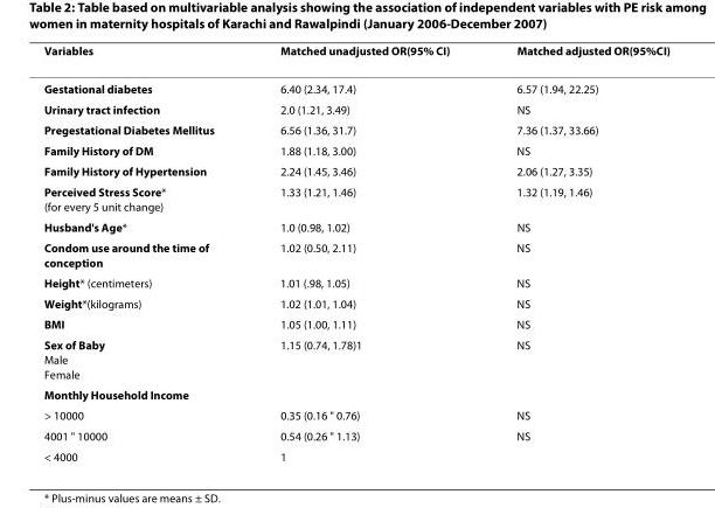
<table><thead><tr><td>Variables</td><td>Matched unadjusted OR(95% CI)</td><td>Matched adjusted OR(95%CI)</td></tr></thead><tbody><tr><td>Gestational diabetes</td><td>6.40 (2.34, 17.4)</td><td>6.57 (1.94, 22.25)</td></tr><tr><td>Urinary tract infection</td><td>2.0 (1.21, 3.49)</td><td>NS</td></tr><tr><td>Pregestational Diabetes Mellitus</td><td>6.56 (1.36, 31.7)</td><td>7.36 (1.37, 33.66)</td></tr><tr><td>Family History of DM</td><td>1.88 (1.18, 3.00)</td><td>NS</td></tr><tr><td>Family History of Hypertension</td><td>2.24 (1.45, 3.46)</td><td>2.06 (1.27, 3.35)</td></tr><tr><td>Perceived Stress Score* (for every 5 unit change)</td><td>1.33 (1.21, 1.46)</td><td>1.32 (1.19, 1.46)</td></tr><tr><td>Husband&#x27;s Age*</td><td>1.0 (0.98, 1.02)</td><td>NS</td></tr><tr><td>Condom use around the time of conception</td><td>1.02 (0.50, 2.11)</td><td>NS</td></tr><tr><td>Height* (centimeters)</td><td>1.01 (.98, 1.05)</td><td>NS</td></tr><tr><td>Weight*(kilograms)</td><td>1.02 (1.01, 1.04)</td><td>NS</td></tr><tr><td>BMI</td><td>1.05 (1.00, 1.11)</td><td>NS</td></tr><tr><td>Sex of Baby Male Female</td><td>1.15 (0.74, 1.78)1</td><td>NS</td></tr><tr><td colspan="3">Monthly Household Income</td></tr><tr><td>&gt; 10000</td><td>0.35 (0.16 &quot; 0.76)</td><td>NS</td></tr><tr><td>4001 &quot; 10000</td><td>0.54 (0.26 &quot; 1.13)</td><td>NS</td></tr><tr><td>&lt; 4000</td><td>1</td><td></td></tr></tbody></table>